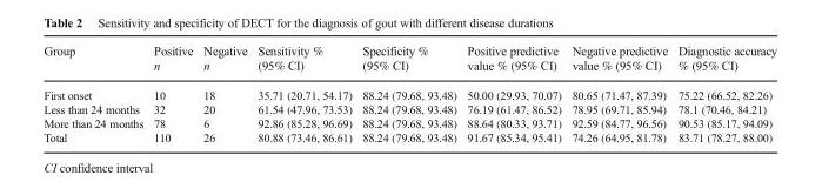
<table><thead><tr><td>Group</td><td>Positive n</td><td>Negative n</td><td>Sensitivity % (95% CI)</td><td>Specificity % (95% CI)</td><td>Positive predictive value % (95% CI)</td><td>Negative predictive value % (95% CI)</td><td>Diagnostic accuracy % (95% CI)</td></tr></thead><tbody><tr><td>First onset</td><td>10</td><td>18</td><td>35.71 (20.71, 54.17)</td><td>88.24 (79.68, 93.48)</td><td>50.00 (29.93, 70.07)</td><td>80.65 (71.47, 87.39)</td><td>75.22 (66.52, 82.26)</td></tr><tr><td>Less than 24 months</td><td>32</td><td>20</td><td>61.54 (47.96, 73.53)</td><td>88.24 (79.68, 93.48)</td><td>76.19 (61.47, 86.52)</td><td>78.95 (69.71, 85.94)</td><td>78.1 (70.46, 84.21)</td></tr><tr><td>More than 24 months</td><td>78</td><td>6</td><td>92.86 (85.28, 96.69)</td><td>88.24 (79.68, 93.48)</td><td>88.64 (80.33, 93.71)</td><td>92.59 (84.77, 96.56)</td><td>90.53 (85.17, 94.09)</td></tr><tr><td>Total</td><td>110</td><td>26</td><td>80.88 (73.46, 86.61)</td><td>88.24 (79.68, 93.48)</td><td>91.67 (85.34, 95.41)</td><td>74.26 (64.95, 81.78)</td><td>83.71 (78.27, 88.00)</td></tr></tbody></table>